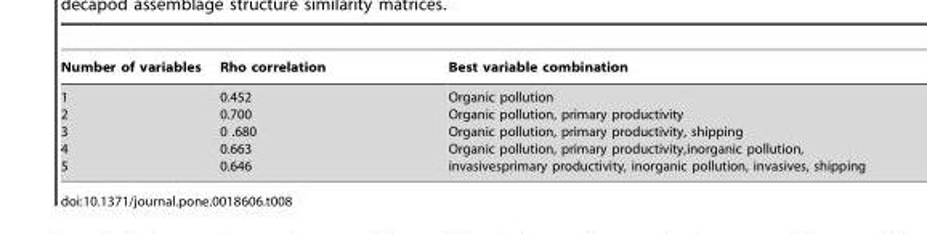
<table><thead><tr><td>Number of variables</td><td>Rho correlation</td><td>Best variable combination</td></tr></thead><tbody><tr><td>1 2 3 4 5</td><td>0.452 0.700 0 .680 0.663 0.646</td><td>Organic pollution Organic pollution, primary productivity Organic pollution, primary productivity, shipping Organic pollution, primary productivity,inorganic pollution, invasivesprimary productivity, inorganic pollution, invasives, shipping</td></tr></tbody></table>